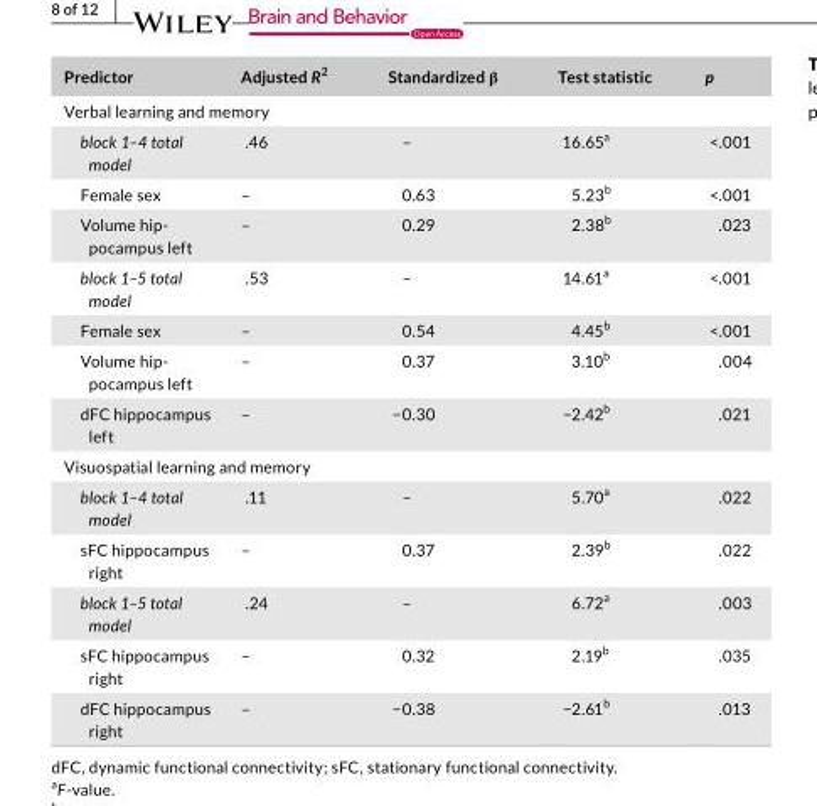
<table><thead><tr><td>Predictor</td><td>Adjusted R<sup>2</sup></td><td>Standardized β</td><td>Test statistic</td><td>p</td></tr></thead><tbody><tr><td colspan="5">Verbal learning and memory</td></tr><tr><td>block 1–4 total model</td><td>.46</td><td>–</td><td>16.65<sup>a</sup></td><td>&lt;.001</td></tr><tr><td>Female sex</td><td>–</td><td>0.63</td><td>5.23<sup>b</sup></td><td>&lt;.001</td></tr><tr><td>Volume hip- pocampus left</td><td>–</td><td>0.29</td><td>2.38<sup>b</sup></td><td>.023</td></tr><tr><td>block 1–5 total model</td><td>.53</td><td>–</td><td>14.61<sup>a</sup></td><td>&lt;.001</td></tr><tr><td>Female sex</td><td>–</td><td>0.54</td><td>4.45<sup>b</sup></td><td>&lt;.001</td></tr><tr><td>Volume hip- pocampus left</td><td>–</td><td>0.37</td><td>3.10<sup>b</sup></td><td>.004</td></tr><tr><td>dFC hippocampus left</td><td>–</td><td>−0.30</td><td>−2.42<sup>b</sup></td><td>.021</td></tr><tr><td colspan="5">Visuospatial learning and memory</td></tr><tr><td>block 1–4 total model</td><td>.11</td><td>–</td><td>5.70<sup>a</sup></td><td>.022</td></tr><tr><td>sFC hippocampus right</td><td>–</td><td>0.37</td><td>2.39<sup>b</sup></td><td>.022</td></tr><tr><td>block 1–5 total model</td><td>.24</td><td>–</td><td>6.72<sup>a</sup></td><td>.003</td></tr><tr><td>sFC hippocampus right</td><td>–</td><td>0.32</td><td>2.19<sup>b</sup></td><td>.035</td></tr><tr><td>dFC hippocampus right</td><td>–</td><td>−0.38</td><td>−2.61<sup>b</sup></td><td>.013</td></tr></tbody></table>